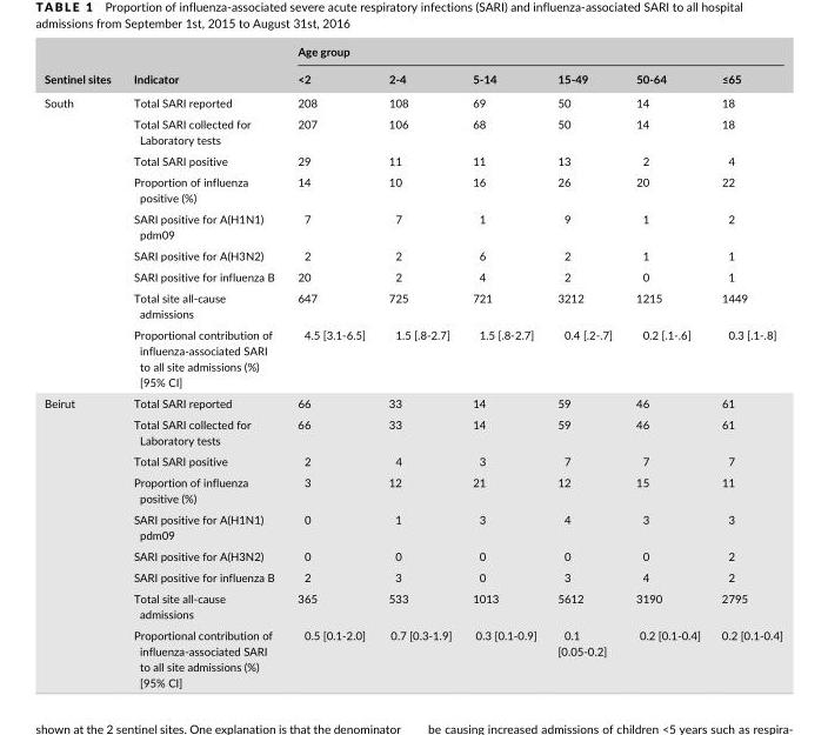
<table><thead><tr><td rowspan="2">Sentinel sites</td><td rowspan="2">Indicator</td><td colspan="6">Age group</td></tr><tr><td>&lt;2</td><td>2- 4</td><td>5- 14</td><td>15- 49</td><td>50- 64</td><td>≤65</td></tr></thead><tbody><tr><td rowspan="9">South</td><td>Total SARI reported</td><td>208</td><td>108</td><td>69</td><td>50</td><td>14</td><td>18</td></tr><tr><td>Total SARI collected for Laboratory tests</td><td>207</td><td>106</td><td>68</td><td>50</td><td>14</td><td>18</td></tr><tr><td>Total SARI positive</td><td>29</td><td>11</td><td>11</td><td>13</td><td>2</td><td>4</td></tr><tr><td>Proportion of influenza positive (%)</td><td>14</td><td>10</td><td>16</td><td>26</td><td>20</td><td>22</td></tr><tr><td>SARI positive for A(H1N1) pdm09</td><td>7</td><td>7</td><td>1</td><td>9</td><td>1</td><td>2</td></tr><tr><td>SARI positive for A(H3N2)</td><td>2</td><td>2</td><td>6</td><td>2</td><td>1</td><td>1</td></tr><tr><td>SARI positive for influenza B</td><td>20</td><td>2</td><td>4</td><td>2</td><td>0</td><td>1</td></tr><tr><td>Total site all- cause admissions</td><td>647</td><td>725</td><td>721</td><td>3212</td><td>1215</td><td>1449</td></tr><tr><td>Proportional contribution of influenza- associated SARI to all site admissions (%) [95% CI]</td><td>4.5 [3.1- 6.5]</td><td>1.5 [.8- 2.7]</td><td>1.5 [.8- 2.7]</td><td>0.4 [.2- .7]</td><td>0.2 [.1- .6]</td><td>0.3 [.1- .8]</td></tr><tr><td rowspan="9">Beirut</td><td>Total SARI reported</td><td>66</td><td>33</td><td>14</td><td>59</td><td>46</td><td>61</td></tr><tr><td>Total SARI collected for Laboratory tests</td><td>66</td><td>33</td><td>14</td><td>59</td><td>46</td><td>61</td></tr><tr><td>Total SARI positive</td><td>2</td><td>4</td><td>3</td><td>7</td><td>7</td><td>7</td></tr><tr><td>Proportion of influenza positive (%)</td><td>3</td><td>12</td><td>21</td><td>12</td><td>15</td><td>11</td></tr><tr><td>SARI positive for A(H1N1) pdm09</td><td>0</td><td>1</td><td>3</td><td>4</td><td>3</td><td>3</td></tr><tr><td>SARI positive for A(H3N2)</td><td>0</td><td>0</td><td>0</td><td>0</td><td>0</td><td>2</td></tr><tr><td>SARI positive for influenza B</td><td>2</td><td>3</td><td>0</td><td>3</td><td>4</td><td>2</td></tr><tr><td>Total site all- cause admissions</td><td>365</td><td>533</td><td>1013</td><td>5612</td><td>3190</td><td>2795</td></tr><tr><td>Proportional contribution of influenza- associated SARI to all site admissions (%) [95% CI]</td><td>0.5 [0.1- 2.0]</td><td>0.7 [0.3- 1.9]</td><td>0.3 [0.1- 0.9]</td><td>0.1 [0.05- 0.2]</td><td>0.2 [0.1- 0.4]</td><td>0.2 [0.1- 0.4]</td></tr></tbody></table>